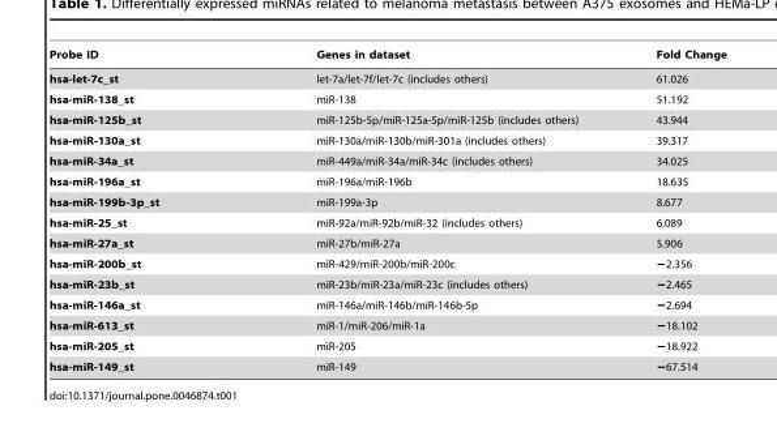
<table><thead><tr><td>Probe ID</td><td>Genes in dataset</td><td>Fold Change</td></tr></thead><tbody><tr><td>hsa-let-7c_st</td><td>let-7a/let-7f/let-7c (includes others)</td><td>61.026</td></tr><tr><td>hsa-miR-138_st</td><td>miR-138</td><td>51.192</td></tr><tr><td>hsa-miR-125b_st</td><td>miR-125b-5p/miR-125a-5p/miR-125b (includes others)</td><td>43.944</td></tr><tr><td>hsa-miR-130a_st</td><td>miR-130a/miR-130b/miR-301a (includes others)</td><td>39.317</td></tr><tr><td>hsa-miR-34a_st</td><td>miR-449a/miR-34a/miR-34c (includes others)</td><td>34.025</td></tr><tr><td>hsa-miR-196a_st</td><td>miR-196a/miR-196b</td><td>18.635</td></tr><tr><td>hsa-miR-199b-3p_st</td><td>miR-199a-3p</td><td>8.677</td></tr><tr><td>hsa-miR-25_st</td><td>miR-92a/miR-92b/miR-32 (includes others)</td><td>6.089</td></tr><tr><td>hsa-miR-27a_st</td><td>miR-27b/miR-27a</td><td>5.906</td></tr><tr><td>hsa-miR-200b_st</td><td>miR-429/miR-200b/miR-200c</td><td>−2.356</td></tr><tr><td>hsa-miR-23b_st</td><td>miR-23b/miR-23a/miR-23c (includes others)</td><td>−2.465</td></tr><tr><td>hsa-miR-146a_st</td><td>miR-146a/miR-146b/miR-146b-5p</td><td>−2.694</td></tr><tr><td>hsa-miR-613_st</td><td>miR-1/miR-206/miR-1a</td><td>−18.102</td></tr><tr><td>hsa-miR-205_st</td><td>miR-205</td><td>−18.922</td></tr><tr><td>hsa-miR-149_st</td><td>miR-149</td><td>−67.514</td></tr></tbody></table>